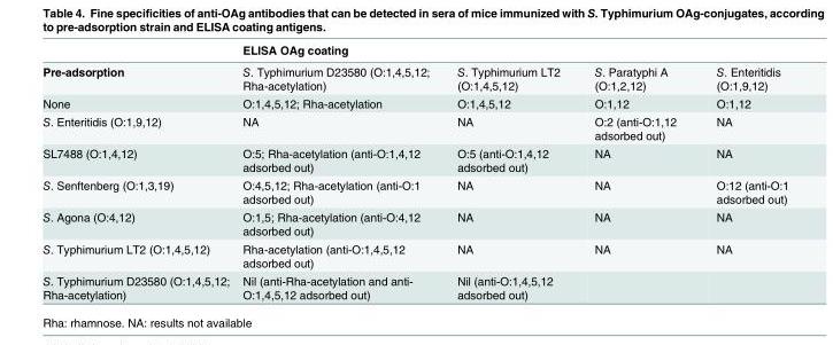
<table><thead><tr><td rowspan="2">Pre-adsorption</td><td colspan="4">ELISA OAg coating</td></tr><tr><td>S. Typhimurium D23580 (O:1,4,5,12; Rha-acetylation)</td><td>S. Typhimurium LT2 (O:1,4,5,12)</td><td>S. Paratyphi A (O:1,2,12)</td><td>S. Enteritidis (O:1,9,12)</td></tr></thead><tbody><tr><td>None</td><td>O:1,4,5,12; Rha-acetylation</td><td>O:1,4,5,12</td><td>O:1,12</td><td>O:1,12</td></tr><tr><td>S. Enteritidis (O:1,9,12)</td><td>NA</td><td>NA</td><td>O:2 (anti-O:1,12 adsorbed out)</td><td>NA</td></tr><tr><td>SL7488 (O:1,4,12)</td><td>O:5; Rha-acetylation (anti-O:1,4,12 adsorbed out)</td><td>O:5 (anti-O:1,4,12 adsorbed out)</td><td>NA</td><td>NA</td></tr><tr><td>S. Senftenberg (O:1,3,19)</td><td>O:4,5,12; Rha-acetylation (anti-O:1 adsorbed out)</td><td>NA</td><td>NA</td><td>O:12 (anti-O:1 adsorbed out)</td></tr><tr><td>S. Agona (O:4,12)</td><td>O:1,5; Rha-acetylation (anti-O:4,12 adsorbed out)</td><td>NA</td><td>NA</td><td>NA</td></tr><tr><td>S. Typhimurium LT2 (O:1,4,5,12)</td><td>Rha-acetylation (anti-O:1,4,5,12 adsorbed out)</td><td>NA</td><td>NA</td><td>NA</td></tr><tr><td>S. Typhimurium D23580 (O:1,4,5,12; Rha-acetylation)</td><td>Nil (anti-Rha-acetylation and anti- O:1,4,5,12 adsorbed out)</td><td>Nil (anti-O:1,4,5,12 adsorbed out)</td><td></td><td></td></tr></tbody></table>